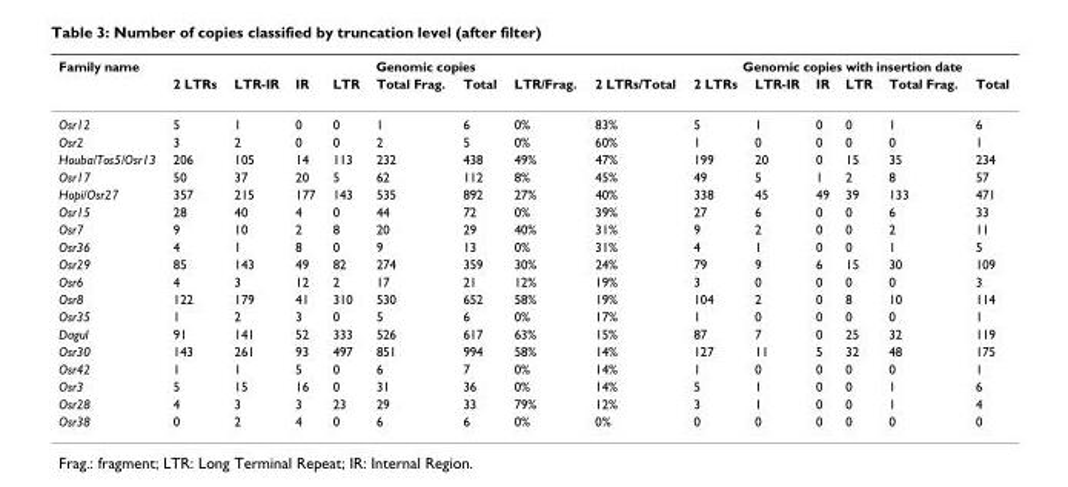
<table><thead><tr><td rowspan="2">Family name</td><td colspan="8">Genomic copies</td><td colspan="6">Genomic copies with insertion date</td></tr><tr><td>2 LTRs</td><td>LTR-IR</td><td>IR</td><td>LTR</td><td>Total Frag.</td><td>Total</td><td>LTR/Frag.</td><td>2 LTRs/Total</td><td>2 LTRs</td><td>LTR-IR</td><td>IR</td><td>LTR</td><td>Total Frag.</td><td>Total</td></tr></thead><tbody><tr><td>Osr12</td><td>5</td><td>1</td><td>0</td><td>0</td><td>1</td><td>6</td><td>0%</td><td>83%</td><td>5</td><td>1</td><td>0</td><td>0</td><td>1</td><td>6</td></tr><tr><td>Osr2</td><td>3</td><td>2</td><td>0</td><td>0</td><td>2</td><td>5</td><td>0%</td><td>60%</td><td>1</td><td>0</td><td>0</td><td>0</td><td>0</td><td>1</td></tr><tr><td>Houba/Tos5/Osr13</td><td>206</td><td>105</td><td>14</td><td>113</td><td>232</td><td>438</td><td>49%</td><td>47%</td><td>199</td><td>20</td><td>0</td><td>15</td><td>35</td><td>234</td></tr><tr><td>Osr17</td><td>50</td><td>37</td><td>20</td><td>5</td><td>62</td><td>112</td><td>8%</td><td>45%</td><td>49</td><td>5</td><td>1</td><td>2</td><td>8</td><td>57</td></tr><tr><td>Hopi/Osr27</td><td>357</td><td>215</td><td>177</td><td>143</td><td>535</td><td>892</td><td>27%</td><td>40%</td><td>338</td><td>45</td><td>49</td><td>39</td><td>133</td><td>471</td></tr><tr><td>Osr15</td><td>28</td><td>40</td><td>4</td><td>0</td><td>44</td><td>72</td><td>0%</td><td>39%</td><td>27</td><td>6</td><td>0</td><td>0</td><td>6</td><td>33</td></tr><tr><td>Osr7</td><td>9</td><td>10</td><td>2</td><td>8</td><td>20</td><td>29</td><td>40%</td><td>31%</td><td>9</td><td>2</td><td>0</td><td>0</td><td>2</td><td>11</td></tr><tr><td>Osr36</td><td>4</td><td>1</td><td>8</td><td>0</td><td>9</td><td>13</td><td>0%</td><td>31%</td><td>4</td><td>1</td><td>0</td><td>0</td><td>1</td><td>5</td></tr><tr><td>Osr29</td><td>85</td><td>143</td><td>49</td><td>82</td><td>274</td><td>359</td><td>30%</td><td>24%</td><td>79</td><td>9</td><td>6</td><td>15</td><td>30</td><td>109</td></tr><tr><td>Osr6</td><td>4</td><td>3</td><td>12</td><td>2</td><td>17</td><td>21</td><td>12%</td><td>19%</td><td>3</td><td>0</td><td>0</td><td>0</td><td>0</td><td>3</td></tr><tr><td>Osr8</td><td>122</td><td>179</td><td>41</td><td>310</td><td>530</td><td>652</td><td>58%</td><td>19%</td><td>104</td><td>2</td><td>0</td><td>8</td><td>10</td><td>114</td></tr><tr><td>Osr35</td><td>1</td><td>2</td><td>3</td><td>0</td><td>5</td><td>6</td><td>0%</td><td>17%</td><td>1</td><td>0</td><td>0</td><td>0</td><td>0</td><td>1</td></tr><tr><td>Dagul</td><td>91</td><td>141</td><td>52</td><td>333</td><td>526</td><td>617</td><td>63%</td><td>15%</td><td>87</td><td>7</td><td>0</td><td>25</td><td>32</td><td>119</td></tr><tr><td>Osr30</td><td>143</td><td>261</td><td>93</td><td>497</td><td>851</td><td>994</td><td>58%</td><td>14%</td><td>127</td><td>11</td><td>5</td><td>32</td><td>48</td><td>175</td></tr><tr><td>Osr42</td><td>1</td><td>1</td><td>5</td><td>0</td><td>6</td><td>7</td><td>0%</td><td>14%</td><td>1</td><td>0</td><td>0</td><td>0</td><td>0</td><td>1</td></tr><tr><td>Osr3</td><td>5</td><td>15</td><td>16</td><td>0</td><td>31</td><td>36</td><td>0%</td><td>14%</td><td>5</td><td>1</td><td>0</td><td>0</td><td>1</td><td>6</td></tr><tr><td>Osr28</td><td>4</td><td>3</td><td>3</td><td>23</td><td>29</td><td>33</td><td>79%</td><td>12%</td><td>3</td><td>1</td><td>0</td><td>0</td><td>1</td><td>4</td></tr><tr><td>Osr38</td><td>0</td><td>2</td><td>4</td><td>0</td><td>6</td><td>6</td><td>0%</td><td>0%</td><td>0</td><td>0</td><td>0</td><td>0</td><td>0</td><td>0</td></tr></tbody></table>